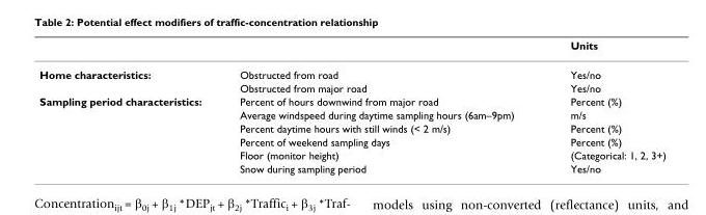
<table><thead><tr><td></td><td></td><td>Units</td></tr></thead><tbody><tr><td rowspan="2">Home characteristics:</td><td>Obstructed from road</td><td>Yes/no</td></tr><tr><td>Obstructed from major road</td><td>Yes/no</td></tr><tr><td rowspan="6">Sampling period characteristics:</td><td>Percent of hours downwind from major road</td><td>Percent (%)</td></tr><tr><td>Average windspeed during daytime sampling hours (6am–9pm)</td><td>m/s</td></tr><tr><td>Percent daytime hours with still winds (&lt; 2 m/s)</td><td>Percent (%)</td></tr><tr><td>Percent of weekend sampling days</td><td>Percent (%)</td></tr><tr><td>Floor (monitor height)</td><td>(Categorical: 1, 2, 3+)</td></tr><tr><td>Snow during sampling period</td><td>Yes/no</td></tr></tbody></table>